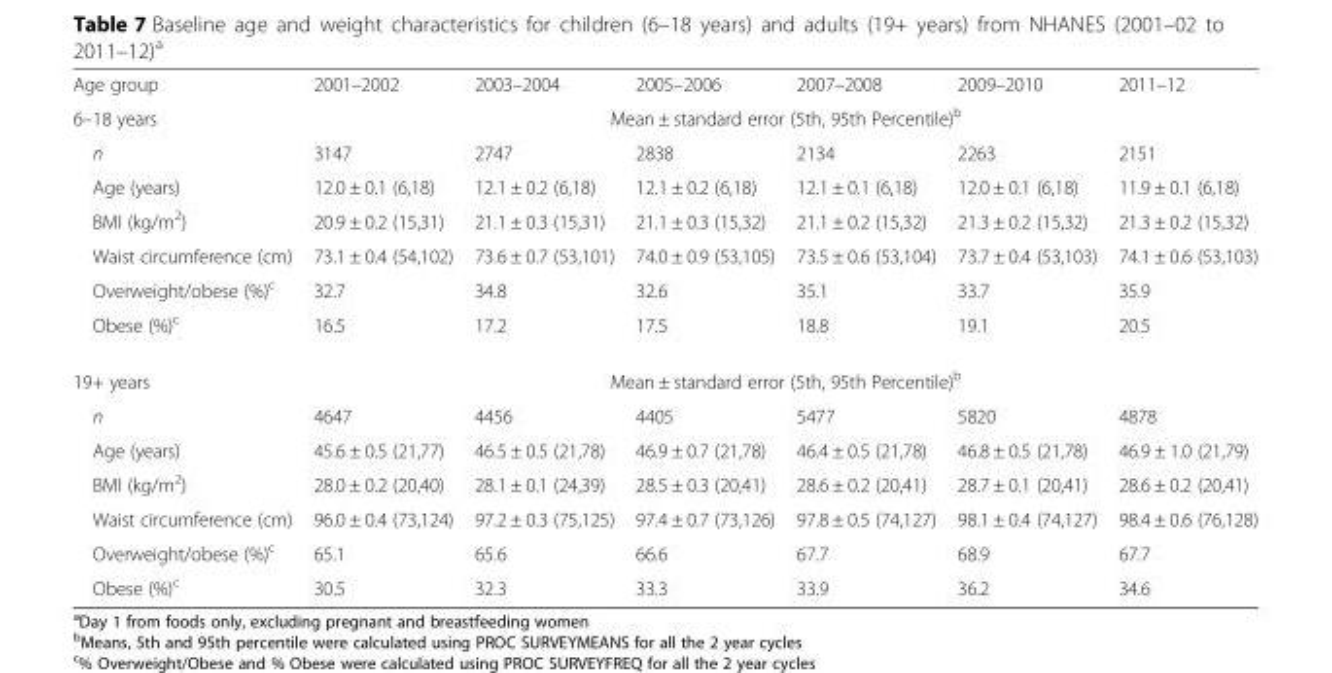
<table><tbody><tr><td>Age group</td><td>2001–2002</td><td>2003–2004</td><td>2005–2006</td><td>2007–2008</td><td>2009–2010</td><td>2011–12</td></tr><tr><td>6–18 years</td><td colspan="6">Mean ± standard error (5th, 95th Percentile)<sup>b</sup></td></tr><tr><td>n</td><td>3147</td><td>2747</td><td>2838</td><td>2134</td><td>2263</td><td>2151</td></tr><tr><td>Age (years)</td><td>12.0 ± 0.1 (6,18)</td><td>12.1 ± 0.2 (6,18)</td><td>12.1 ± 0.2 (6,18)</td><td>12.1 ± 0.1 (6,18)</td><td>12.0 ± 0.1 (6,18)</td><td>11.9 ± 0.1 (6,18)</td></tr><tr><td>BMI (kg/m<sup>2</sup>)</td><td>20.9 ± 0.2 (15,31)</td><td>21.1 ± 0.3 (15,31)</td><td>21.1 ± 0.3 (15,32)</td><td>21.1 ± 0.2 (15,32)</td><td>21.3 ± 0.2 (15,32)</td><td>21.3 ± 0.2 (15,32)</td></tr><tr><td>Waist circumference (cm)</td><td>73.1 ± 0.4 (54,102)</td><td>73.6 ± 0.7 (53,101)</td><td>74.0 ± 0.9 (53,105)</td><td>73.5 ± 0.6 (53,104)</td><td>73.7 ± 0.4 (53,103)</td><td>74.1 ± 0.6 (53,103)</td></tr><tr><td>Overweight/obese (%)<sup>c</sup></td><td>32.7</td><td>34.8</td><td>32.6</td><td>35.1</td><td>33.7</td><td>35.9</td></tr><tr><td>Obese (%)<sup>c</sup></td><td>16.5</td><td>17.2</td><td>17.5</td><td>18.8</td><td>19.1</td><td>20.5</td></tr><tr><td>19+ years</td><td colspan="6">Mean ± standard error (5th, 95th Percentile)<sup>b</sup></td></tr><tr><td>n</td><td>4647</td><td>4456</td><td>4405</td><td>5477</td><td>5820</td><td>4878</td></tr><tr><td>Age (years)</td><td>45.6 ± 0.5 (21,77)</td><td>46.5 ± 0.5 (21,78)</td><td>46.9 ± 0.7 (21,78)</td><td>46.4 ± 0.5 (21,78)</td><td>46.8 ± 0.5 (21,78)</td><td>46.9 ± 1.0 (21,79)</td></tr><tr><td>BMI (kg/m<sup>2</sup>)</td><td>28.0 ± 0.2 (20,40)</td><td>28.1 ± 0.1 (24,39)</td><td>28.5 ± 0.3 (20,41)</td><td>28.6 ± 0.2 (20,41)</td><td>28.7 ± 0.1 (20,41)</td><td>28.6 ± 0.2 (20,41)</td></tr><tr><td>Waist circumference (cm)</td><td>96.0 ± 0.4 (73,124)</td><td>97.2 ± 0.3 (75,125)</td><td>97.4 ± 0.7 (73,126)</td><td>97.8 ± 0.5 (74,127)</td><td>98.1 ± 0.4 (74,127)</td><td>98.4 ± 0.6 (76,128)</td></tr><tr><td>Overweight/obese (%)<sup>c</sup></td><td>65.1</td><td>65.6</td><td>66.6</td><td>67.7</td><td>68.9</td><td>67.7</td></tr><tr><td>Obese (%)<sup>c</sup></td><td>30.5</td><td>32.3</td><td>33.3</td><td>33.9</td><td>36.2</td><td>34.6</td></tr></tbody></table>